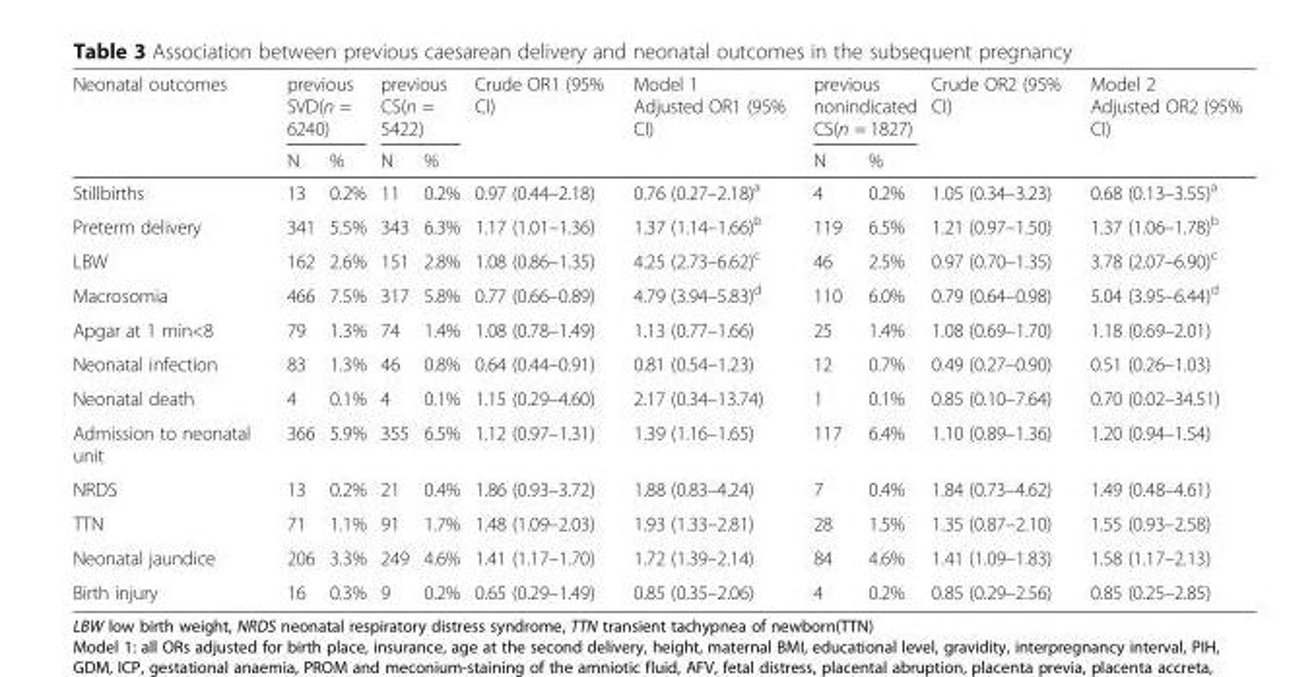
<table><thead><tr><td rowspan="2">Neonatal outcomes</td><td colspan="2">previous SVD(n = 6240)</td><td colspan="2">previous CS(n = 5422)</td><td rowspan="2">Crude OR1 (95% CI)</td><td rowspan="2">Model 1 Adjusted OR1 (95% CI)</td><td colspan="2">previous nonindicated CS(n = 1827)</td><td rowspan="2">Crude OR2 (95% CI)</td><td rowspan="2">Model 2 Adjusted OR2 (95% CI)</td></tr><tr><td>N</td><td>%</td><td>N</td><td>%</td><td>N</td><td>%</td></tr></thead><tbody><tr><td>Stillbirths</td><td>13</td><td>0.2%</td><td>11</td><td>0.2%</td><td>0.97 (0.44–2.18)</td><td>0.76 (0.27–2.18)<sup>a</sup></td><td>4</td><td>0.2%</td><td>1.05 (0.34–3.23)</td><td>0.68 (0.13–3.55)<sup>a</sup></td></tr><tr><td>Preterm delivery</td><td>341</td><td>5.5%</td><td>343</td><td>6.3%</td><td>1.17 (1.01–1.36)</td><td>1.37 (1.14–1.66)<sup>b</sup></td><td>119</td><td>6.5%</td><td>1.21 (0.97–1.50)</td><td>1.37 (1.06–1.78)<sup>b</sup></td></tr><tr><td>LBW</td><td>162</td><td>2.6%</td><td>151</td><td>2.8%</td><td>1.08 (0.86–1.35)</td><td>4.25 (2.73–6.62)<sup>c</sup></td><td>46</td><td>2.5%</td><td>0.97 (0.70–1.35)</td><td>3.78 (2.07–6.90)<sup>c</sup></td></tr><tr><td>Macrosomia</td><td>466</td><td>7.5%</td><td>317</td><td>5.8%</td><td>0.77 (0.66–0.89)</td><td>4.79 (3.94–5.83)<sup>d</sup></td><td>110</td><td>6.0%</td><td>0.79 (0.64–0.98)</td><td>5.04 (3.95–6.44)<sup>d</sup></td></tr><tr><td>Apgar at 1 min&lt;8</td><td>79</td><td>1.3%</td><td>74</td><td>1.4%</td><td>1.08 (0.78–1.49)</td><td>1.13 (0.77–1.66)</td><td>25</td><td>1.4%</td><td>1.08 (0.69–1.70)</td><td>1.18 (0.69–2.01)</td></tr><tr><td>Neonatal infection</td><td>83</td><td>1.3%</td><td>46</td><td>0.8%</td><td>0.64 (0.44–0.91)</td><td>0.81 (0.54–1.23)</td><td>12</td><td>0.7%</td><td>0.49 (0.27–0.90)</td><td>0.51 (0.26–1.03)</td></tr><tr><td>Neonatal death</td><td>4</td><td>0.1%</td><td>4</td><td>0.1%</td><td>1.15 (0.29–4.60)</td><td>2.17 (0.34–13.74)</td><td>1</td><td>0.1%</td><td>0.85 (0.10–7.64)</td><td>0.70 (0.02–34.51)</td></tr><tr><td>Admission to neonatal unit</td><td>366</td><td>5.9%</td><td>355</td><td>6.5%</td><td>1.12 (0.97–1.31)</td><td>1.39 (1.16–1.65)</td><td>117</td><td>6.4%</td><td>1.10 (0.89–1.36)</td><td>1.20 (0.94–1.54)</td></tr><tr><td>NRDS</td><td>13</td><td>0.2%</td><td>21</td><td>0.4%</td><td>1.86 (0.93–3.72)</td><td>1.88 (0.83–4.24)</td><td>7</td><td>0.4%</td><td>1.84 (0.73–4.62)</td><td>1.49 (0.48–4.61)</td></tr><tr><td>TTN</td><td>71</td><td>1.1%</td><td>91</td><td>1.7%</td><td>1.48 (1.09–2.03)</td><td>1.93 (1.33–2.81)</td><td>28</td><td>1.5%</td><td>1.35 (0.87–2.10)</td><td>1.55 (0.93–2.58)</td></tr><tr><td>Neonatal jaundice</td><td>206</td><td>3.3%</td><td>249</td><td>4.6%</td><td>1.41 (1.17–1.70)</td><td>1.72 (1.39–2.14)</td><td>84</td><td>4.6%</td><td>1.41 (1.09–1.83)</td><td>1.58 (1.17–2.13)</td></tr><tr><td>Birth injury</td><td>16</td><td>0.3%</td><td>9</td><td>0.2%</td><td>0.65 (0.29–1.49)</td><td>0.85 (0.35–2.06)</td><td>4</td><td>0.2%</td><td>0.85 (0.29–2.56)</td><td>0.85 (0.25–2.85)</td></tr></tbody></table>